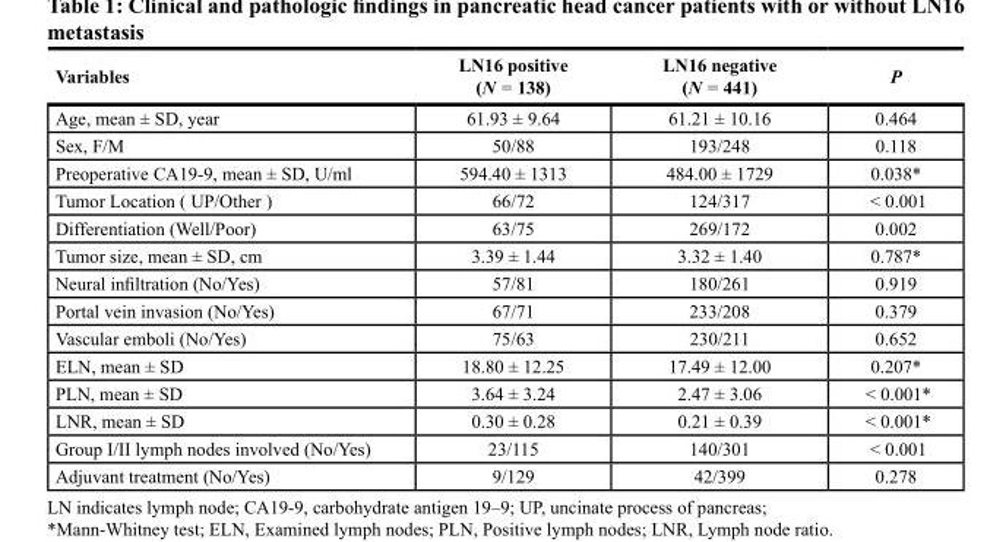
<table><thead><tr><td>Variables</td><td>LN16 positive (N = 138)</td><td>LN16 negative (N = 441)</td><td>P</td></tr></thead><tbody><tr><td>Age, mean ± SD, year</td><td>61.93 ± 9.64</td><td>61.21 ± 10.16</td><td>0.464</td></tr><tr><td>Sex, F/M</td><td>50/88</td><td>193/248</td><td>0.118</td></tr><tr><td>Preoperative CA19-9, mean ± SD, U/ml</td><td>594.40 ± 1313</td><td>484.00 ± 1729</td><td>0.038*</td></tr><tr><td>Tumor Location ( UP/Other )</td><td>66/72</td><td>124/317</td><td>&lt; 0.001</td></tr><tr><td>Differentiation (Well/Poor)</td><td>63/75</td><td>269/172</td><td>0.002</td></tr><tr><td>Tumor size, mean ± SD, cm</td><td>3.39 ± 1.44</td><td>3.32 ± 1.40</td><td>0.787*</td></tr><tr><td>Neural infiltration (No/Yes)</td><td>57/81</td><td>180/261</td><td>0.919</td></tr><tr><td>Portal vein invasion (No/Yes)</td><td>67/71</td><td>233/208</td><td>0.379</td></tr><tr><td>Vascular emboli (No/Yes)</td><td>75/63</td><td>230/211</td><td>0.652</td></tr><tr><td>ELN, mean ± SD</td><td>18.80 ± 12.25</td><td>17.49 ± 12.00</td><td>0.207*</td></tr><tr><td>PLN, mean ± SD</td><td>3.64 ± 3.24</td><td>2.47 ± 3.06</td><td>&lt; 0.001*</td></tr><tr><td>LNR, mean ± SD</td><td>0.30 ± 0.28</td><td>0.21 ± 0.39</td><td>&lt; 0.001*</td></tr><tr><td>Group I/II lymph nodes involved (No/Yes)</td><td>23/115</td><td>140/301</td><td>&lt; 0.001</td></tr><tr><td>Adjuvant treatment (No/Yes)</td><td>9/129</td><td>42/399</td><td>0.278</td></tr></tbody></table>